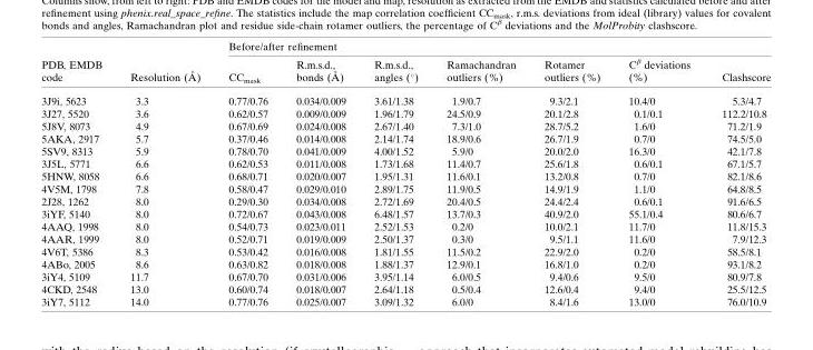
<table><thead><tr><td rowspan="2">PDB, EMDB code</td><td rowspan="2">Resolution (A˚ )</td><td colspan="7">Before/after refinement</td></tr><tr><td>CC<sub>mask</sub></td><td>R.m.s.d., bonds (A˚ )</td><td>R.m.s.d., angles (°)</td><td>Ramachandran outliers (%)</td><td>Rotamer outliers (%)</td><td>C<sup>β</sup> deviations (%)</td><td>Clashscore</td></tr></thead><tbody><tr><td>3J9i, 5623</td><td>3.3</td><td>0.77/0.76</td><td>0.034/0.009</td><td>3.61/1.38</td><td>1.9/0.7</td><td>9.3/2.1</td><td>10.4/0</td><td>5.3/4.7</td></tr><tr><td>3J27, 5520</td><td>3.6</td><td>0.62/0.57</td><td>0.009/0.009</td><td>1.96/1.79</td><td>24.5/0.9</td><td>20.1/2.8</td><td>0.1/0.1</td><td>112.2/10.8</td></tr><tr><td>5J8V, 8073</td><td>4.9</td><td>0.67/0.69</td><td>0.024/0.008</td><td>2.67/1.40</td><td>7.3/1.0</td><td>28.7/5.2</td><td>1.6/0</td><td>71.2/1.9</td></tr><tr><td>5AKA, 2917</td><td>5.7</td><td>0.37/0.46</td><td>0.014/0.008</td><td>2.14/1.74</td><td>18.9/0.6</td><td>26.7/1.9</td><td>0.7/0</td><td>74.5/5.0</td></tr><tr><td>5SV9, 8313</td><td>5.9</td><td>0.78/0.70</td><td>0.041/0.009</td><td>4.00/1.52</td><td>5.9/0</td><td>20.0/2.0</td><td>16.3/0</td><td>42.1/7.8</td></tr><tr><td>3J5L, 5771</td><td>6.6</td><td>0.62/0.53</td><td>0.011/0.008</td><td>1.73/1.68</td><td>11.4/0.7</td><td>25.6/1.8</td><td>0.6/0.1</td><td>67.1/5.7</td></tr><tr><td>5HNW, 8058</td><td>6.6</td><td>0.68/0.71</td><td>0.020/0.007</td><td>1.95/1.31</td><td>11.6/0.1</td><td>13.2/0.8</td><td>0.7/0</td><td>82.1/8.6</td></tr><tr><td>4V5M, 1798</td><td>7.8</td><td>0.58/0.47</td><td>0.029/0.010</td><td>2.89/1.75</td><td>11.9/0.5</td><td>14.9/1.9</td><td>1.1/0</td><td>64.8/8.5</td></tr><tr><td>2J28, 1262</td><td>8.0</td><td>0.29/0.30</td><td>0.034/0.008</td><td>2.72/1.69</td><td>20.4/0.5</td><td>24.4/2.4</td><td>0.6/0.1</td><td>91.6/6.5</td></tr><tr><td>3iYF, 5140</td><td>8.0</td><td>0.72/0.67</td><td>0.043/0.008</td><td>6.48/1.57</td><td>13.7/0.3</td><td>40.9/2.0</td><td>55.1/0.4</td><td>80.6/6.7</td></tr><tr><td>4AAQ, 1998</td><td>8.0</td><td>0.54/0.73</td><td>0.023/0.011</td><td>2.52/1.53</td><td>0.2/0</td><td>10.0/2.1</td><td>11.7/0</td><td>11.8/15.3</td></tr><tr><td>4AAR, 1999</td><td>8.0</td><td>0.52/0.71</td><td>0.019/0.009</td><td>2.50/1.37</td><td>0.3/0</td><td>9.5/1.1</td><td>11.6/0</td><td>7.9/12.3</td></tr><tr><td>4V6T, 5386</td><td>8.3</td><td>0.53/0.42</td><td>0.016/0.008</td><td>1.81/1.55</td><td>11.5/0.2</td><td>22.9/2.0</td><td>0.2/0</td><td>58.5/8.1</td></tr><tr><td>4ABo, 2005</td><td>8.6</td><td>0.63/0.82</td><td>0.018/0.008</td><td>1.88/1.37</td><td>12.9/0.1</td><td>16.8/1.0</td><td>0.2/0</td><td>93.1/8.2</td></tr><tr><td>3iY4, 5109</td><td>11.7</td><td>0.67/0.70</td><td>0.031/0.006</td><td>3.95/1.14</td><td>6.0/0.5</td><td>9.4/0.6</td><td>9.5/0</td><td>80.9/7.8</td></tr><tr><td>4CKD, 2548</td><td>13.0</td><td>0.60/0.74</td><td>0.018/0.007</td><td>2.64/1.18</td><td>0.5/0.4</td><td>12.6/0.4</td><td>9.4/0</td><td>25.5/12.5</td></tr><tr><td>3iY7, 5112</td><td>14.0</td><td>0.77/0.76</td><td>0.025/0.007</td><td>3.09/1.32</td><td>6.0/0</td><td>8.4/1.6</td><td>13.0/0</td><td>76.0/10.9</td></tr></tbody></table>